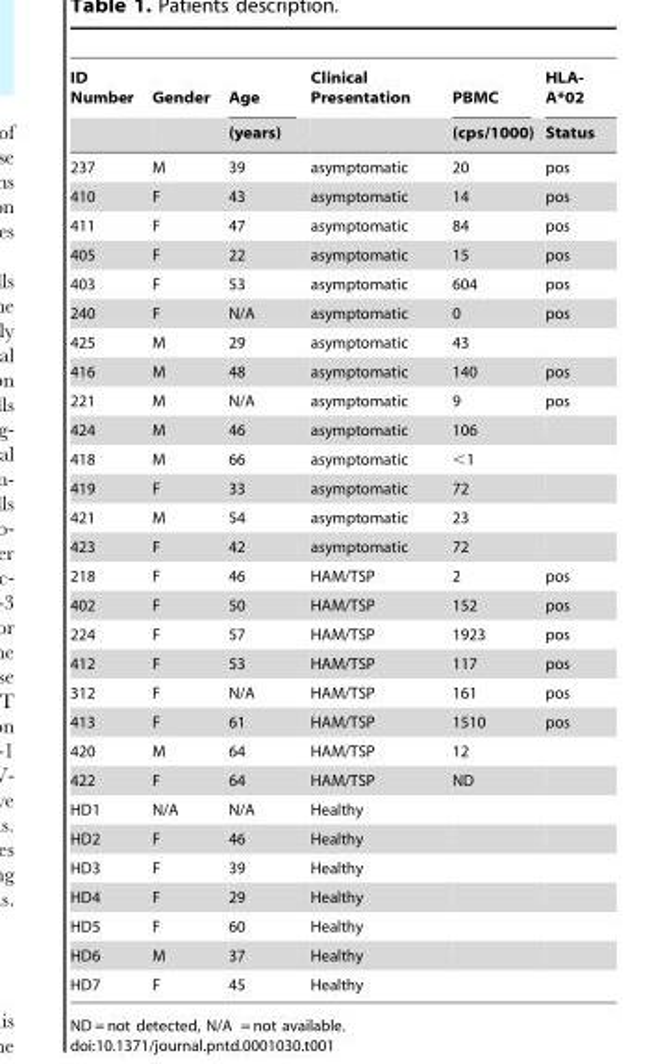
<table><thead><tr><td rowspan="2">ID Number</td><td rowspan="2">Gender</td><td rowspan="2">Age (years)</td><td rowspan="2">Clinical Presentation</td><td rowspan="2">PBMC (cps/1000)</td><td rowspan="2">HLA- A*02 Status</td></tr><tr></tr></thead><tbody><tr><td>237</td><td>M</td><td>39</td><td>asymptomatic</td><td>20</td><td>pos</td></tr><tr><td>410</td><td>F</td><td>43</td><td>asymptomatic</td><td>14</td><td>pos</td></tr><tr><td>411</td><td>F</td><td>47</td><td>asymptomatic</td><td>84</td><td>pos</td></tr><tr><td>405</td><td>F</td><td>22</td><td>asymptomatic</td><td>15</td><td>pos</td></tr><tr><td>403</td><td>F</td><td>53</td><td>asymptomatic</td><td>604</td><td>pos</td></tr><tr><td>240</td><td>F</td><td>N/A</td><td>asymptomatic</td><td>0</td><td>pos</td></tr><tr><td>425</td><td>M</td><td>29</td><td>asymptomatic</td><td>43</td><td></td></tr><tr><td>416</td><td>M</td><td>48</td><td>asymptomatic</td><td>140</td><td>pos</td></tr><tr><td>221</td><td>M</td><td>N/A</td><td>asymptomatic</td><td>9</td><td>pos</td></tr><tr><td>424</td><td>M</td><td>46</td><td>asymptomatic</td><td>106</td><td></td></tr><tr><td>418</td><td>M</td><td>66</td><td>asymptomatic</td><td>&lt;1</td><td></td></tr><tr><td>419</td><td>F</td><td>33</td><td>asymptomatic</td><td>72</td><td></td></tr><tr><td>421</td><td>M</td><td>54</td><td>asymptomatic</td><td>23</td><td></td></tr><tr><td>423</td><td>F</td><td>42</td><td>asymptomatic</td><td>72</td><td></td></tr><tr><td>218</td><td>F</td><td>46</td><td>HAM/TSP</td><td>2</td><td>pos</td></tr><tr><td>402</td><td>F</td><td>50</td><td>HAM/TSP</td><td>152</td><td>pos</td></tr><tr><td>224</td><td>F</td><td>57</td><td>HAM/TSP</td><td>1923</td><td>pos</td></tr><tr><td>412</td><td>F</td><td>53</td><td>HAM/TSP</td><td>117</td><td>pos</td></tr><tr><td>312</td><td>F</td><td>N/A</td><td>HAM/TSP</td><td>161</td><td>pos</td></tr><tr><td>413</td><td>F</td><td>61</td><td>HAM/TSP</td><td>1510</td><td>pos</td></tr><tr><td>420</td><td>M</td><td>64</td><td>HAM/TSP</td><td>12</td><td></td></tr><tr><td>422</td><td>F</td><td>64</td><td>HAM/TSP</td><td>ND</td><td></td></tr><tr><td>HD1</td><td>N/A</td><td>N/A</td><td>Healthy</td><td></td><td></td></tr><tr><td>HD2</td><td>F</td><td>46</td><td>Healthy</td><td></td><td></td></tr><tr><td>HD3</td><td>F</td><td>39</td><td>Healthy</td><td></td><td></td></tr><tr><td>HD4</td><td>F</td><td>29</td><td>Healthy</td><td></td><td></td></tr><tr><td>HD5</td><td>F</td><td>60</td><td>Healthy</td><td></td><td></td></tr><tr><td>HD6</td><td>M</td><td>37</td><td>Healthy</td><td></td><td></td></tr><tr><td>HD7</td><td>F</td><td>45</td><td>Healthy</td><td></td><td></td></tr></tbody></table>